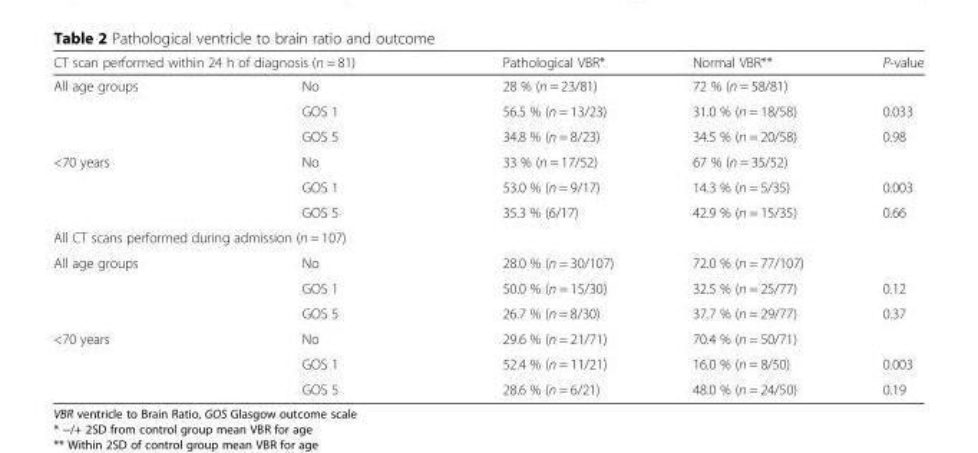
<table><thead><tr><td colspan="2">CT scan performed within 24 h of diagnosis (n = 81)</td><td rowspan="2">Pathological VBR* 28 % (n = 23/81)</td><td rowspan="2">Normal VBR** 72 % (n = 58/81)</td><td rowspan="2">P-value</td></tr><tr><td>All age groups</td><td>No</td></tr></thead><tbody><tr><td></td><td>GOS 1</td><td>56.5 % (n = 13/23)</td><td>31.0 % (n = 18/58)</td><td>0.033</td></tr><tr><td></td><td>GOS 5</td><td>34.8 % (n = 8/23)</td><td>34.5 % (n = 20/58)</td><td>0.98</td></tr><tr><td rowspan="3">&lt;70 years</td><td>No</td><td>33 % (n = 17/52)</td><td>67 % (n = 35/52)</td><td></td></tr><tr><td>GOS 1</td><td>53.0 % (n = 9/17)</td><td>14.3 % (n = 5/35)</td><td>0.003</td></tr><tr><td>GOS 5</td><td>35.3 % (6/17)</td><td>42.9 % (n = 15/35)</td><td>0.66</td></tr><tr><td colspan="5">All CT scans performed during admission (n = 107)</td></tr><tr><td rowspan="3">All age groups</td><td>No</td><td>28.0 % (n = 30/107)</td><td>72.0 % (n = 77/107)</td><td></td></tr><tr><td>GOS 1</td><td>50.0 % (n = 15/30)</td><td>32.5 % (n = 25/77)</td><td>0.12</td></tr><tr><td>GOS 5</td><td>26.7 % (n = 8/30)</td><td>37.7 % (n = 29/77)</td><td>0.37</td></tr><tr><td rowspan="3">&lt;70 years</td><td>No</td><td>29.6 % (n = 21/71)</td><td>70.4 % (n = 50/71)</td><td></td></tr><tr><td>GOS 1</td><td>52.4 % (n = 11/21)</td><td>16.0 % (n = 8/50)</td><td>0.003</td></tr><tr><td>GOS 5</td><td>28.6 % (n = 6/21)</td><td>48.0 % (n = 24/50)</td><td>0.19</td></tr></tbody></table>